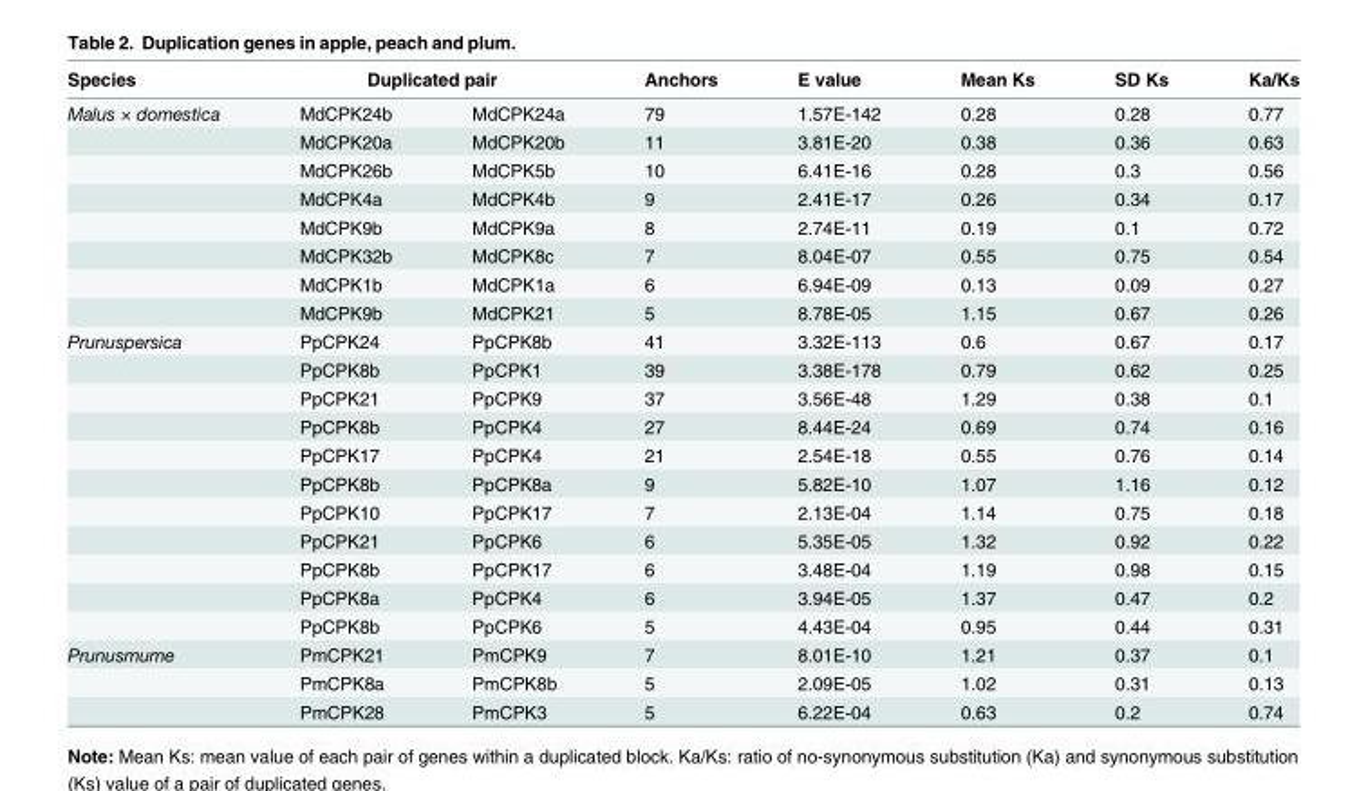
<table><thead><tr><td rowspan="2">Species Malus × domestica</td><td colspan="2">Duplicated pair</td><td rowspan="2">Anchors 79</td><td rowspan="2">E value 1.57E-142</td><td rowspan="2">Mean Ks 0.28</td><td rowspan="2">SD Ks 0.28</td><td rowspan="2">Ka/Ks 0.77</td></tr><tr><td>MdCPK24b</td><td>MdCPK24a</td></tr></thead><tbody><tr><td></td><td>MdCPK20a</td><td>MdCPK20b</td><td>11</td><td>3.81E-20</td><td>0.38</td><td>0.36</td><td>0.63</td></tr><tr><td></td><td>MdCPK26b</td><td>MdCPK5b</td><td>10</td><td>6.41E-16</td><td>0.28</td><td>0.3</td><td>0.56</td></tr><tr><td></td><td>MdCPK4a</td><td>MdCPK4b</td><td>9</td><td>2.41E-17</td><td>0.26</td><td>0.34</td><td>0.17</td></tr><tr><td></td><td>MdCPK9b</td><td>MdCPK9a</td><td>8</td><td>2.74E-11</td><td>0.19</td><td>0.1</td><td>0.72</td></tr><tr><td></td><td>MdCPK32b</td><td>MdCPK8c</td><td>7</td><td>8.04E-07</td><td>0.55</td><td>0.75</td><td>0.54</td></tr><tr><td></td><td>MdCPK1b</td><td>MdCPK1a</td><td>6</td><td>6.94E-09</td><td>0.13</td><td>0.09</td><td>0.27</td></tr><tr><td></td><td>MdCPK9b</td><td>MdCPK21</td><td>5</td><td>8.78E-05</td><td>1.15</td><td>0.67</td><td>0.26</td></tr><tr><td rowspan="11">Prunuspersica</td><td>PpCPK24</td><td>PpCPK8b</td><td>41</td><td>3.32E-113</td><td>0.6</td><td>0.67</td><td>0.17</td></tr><tr><td>PpCPK8b</td><td>PpCPK1</td><td>39</td><td>3.38E-178</td><td>0.79</td><td>0.62</td><td>0.25</td></tr><tr><td>PpCPK21</td><td>PpCPK9</td><td>37</td><td>3.56E-48</td><td>1.29</td><td>0.38</td><td>0.1</td></tr><tr><td>PpCPK8b</td><td>PpCPK4</td><td>27</td><td>8.44E-24</td><td>0.69</td><td>0.74</td><td>0.16</td></tr><tr><td>PpCPK17</td><td>PpCPK4</td><td>21</td><td>2.54E-18</td><td>0.55</td><td>0.76</td><td>0.14</td></tr><tr><td>PpCPK8b</td><td>PpCPK8a</td><td>9</td><td>5.82E-10</td><td>1.07</td><td>1.16</td><td>0.12</td></tr><tr><td>PpCPK10</td><td>PpCPK17</td><td>7</td><td>2.13E-04</td><td>1.14</td><td>0.75</td><td>0.18</td></tr><tr><td>PpCPK21</td><td>PpCPK6</td><td>6</td><td>5.35E-05</td><td>1.32</td><td>0.92</td><td>0.22</td></tr><tr><td>PpCPK8b</td><td>PpCPK17</td><td>6</td><td>3.48E-04</td><td>1.19</td><td>0.98</td><td>0.15</td></tr><tr><td>PpCPK8a</td><td>PpCPK4</td><td>6</td><td>3.94E-05</td><td>1.37</td><td>0.47</td><td>0.2</td></tr><tr><td>PpCPK8b</td><td>PpCPK6</td><td>5</td><td>4.43E-04</td><td>0.95</td><td>0.44</td><td>0.31</td></tr><tr><td rowspan="3">Prunusmume</td><td>PmCPK21</td><td>PmCPK9</td><td>7</td><td>8.01E-10</td><td>1.21</td><td>0.37</td><td>0.1</td></tr><tr><td>PmCPK8a</td><td>PmCPK8b</td><td>5</td><td>2.09E-05</td><td>1.02</td><td>0.31</td><td>0.13</td></tr><tr><td>PmCPK28</td><td>PmCPK3</td><td>5</td><td>6.22E-04</td><td>0.63</td><td>0.2</td><td>0.74</td></tr></tbody></table>